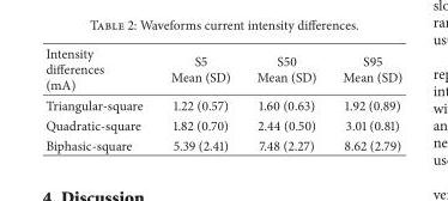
<table><thead><tr><td>Intensity differences (mA)</td><td>S5 Mean (SD)</td><td>S50 Mean (SD)</td><td>S95 Mean (SD)</td></tr></thead><tbody><tr><td>Triangular-square</td><td>1.22 (0.57)</td><td>1.60 (0.63)</td><td>1.92 (0.89)</td></tr><tr><td>Quadratic-square</td><td>1.82 (0.70)</td><td>2.44 (0.50)</td><td>3.01 (0.81)</td></tr><tr><td>Biphasic-square</td><td>5.39 (2.41)</td><td>7.48 (2.27)</td><td>8.62 (2.79)</td></tr></tbody></table>